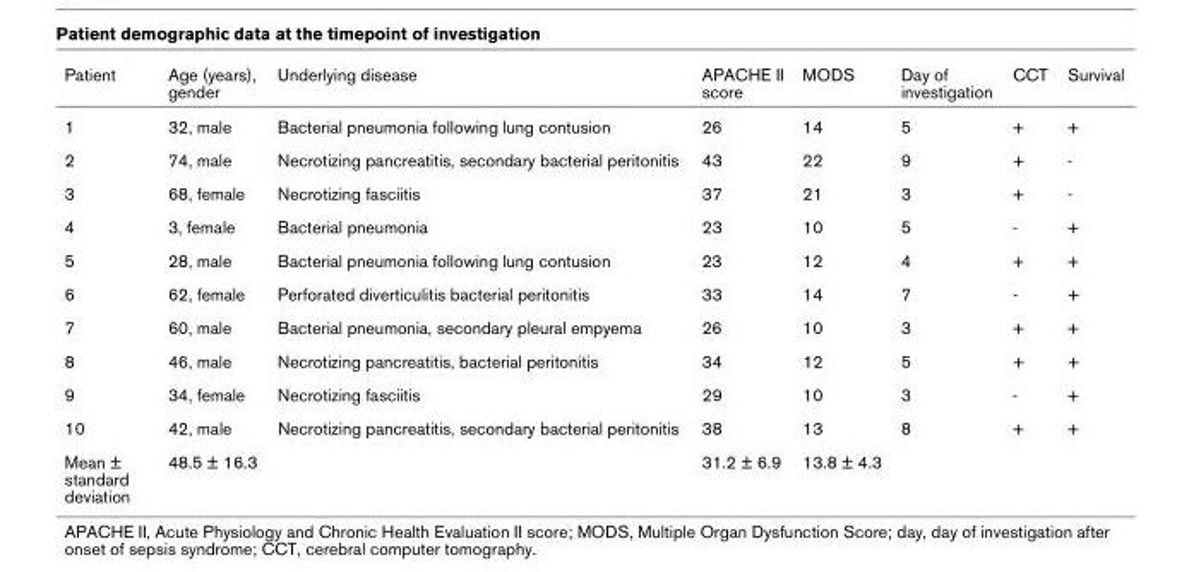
<table><thead><tr><td>Patient</td><td>Age (years), gender</td><td>Underlying disease</td><td>APACHE II score</td><td>MODS</td><td>Day of investigation</td><td>CCT</td><td>Survival</td></tr></thead><tbody><tr><td>1</td><td>32, male</td><td>Bacterial pneumonia following lung contusion</td><td>26</td><td>14</td><td>5</td><td>+</td><td>+</td></tr><tr><td>2</td><td>74, male</td><td>Necrotizing pancreatitis, secondary bacterial peritonitis</td><td>43</td><td>22</td><td>9</td><td>+</td><td>-</td></tr><tr><td>3</td><td>68, female</td><td>Necrotizing fasciitis</td><td>37</td><td>21</td><td>3</td><td>+</td><td>-</td></tr><tr><td>4</td><td>3, female</td><td>Bacterial pneumonia</td><td>23</td><td>10</td><td>5</td><td>-</td><td>+</td></tr><tr><td>5</td><td>28, male</td><td>Bacterial pneumonia following lung contusion</td><td>23</td><td>12</td><td>4</td><td>+</td><td>+</td></tr><tr><td>6</td><td>62, female</td><td>Perforated diverticulitis bacterial peritonitis</td><td>33</td><td>14</td><td>7</td><td>-</td><td>+</td></tr><tr><td>7</td><td>60, male</td><td>Bacterial pneumonia, secondary pleural empyema</td><td>26</td><td>10</td><td>3</td><td>+</td><td>+</td></tr><tr><td>8</td><td>46, male</td><td>Necrotizing pancreatitis, bacterial peritonitis</td><td>34</td><td>12</td><td>5</td><td>+</td><td>+</td></tr><tr><td>9</td><td>34, female</td><td>Necrotizing fasciitis</td><td>29</td><td>10</td><td>3</td><td>-</td><td>+</td></tr><tr><td>10</td><td>42, male</td><td>Necrotizing pancreatitis, secondary bacterial peritonitis</td><td>38</td><td>13</td><td>8</td><td>+</td><td>+</td></tr><tr><td>Mean ± standard deviation</td><td>48.5 ± 16.3</td><td></td><td>31.2 ± 6.9</td><td>13.8 ± 4.3</td><td></td><td></td><td></td></tr></tbody></table>